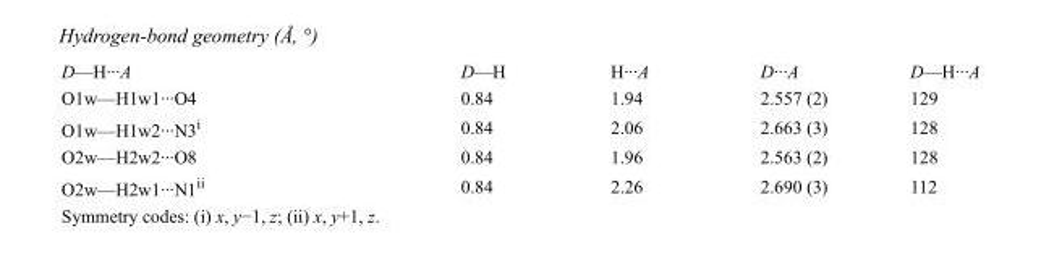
<table><tbody><tr><td>D—H···A</td><td>D—H</td><td>H···A</td><td>D···A</td><td>D—H···A</td></tr><tr><td>O1w—H1w1···O4</td><td>0.84</td><td>1.94</td><td>2.557 (2)</td><td>129</td></tr><tr><td>O1w—H1w2···N3<sup>i</sup></td><td>0.84</td><td>2.06</td><td>2.663 (3)</td><td>128</td></tr><tr><td>O2w—H2w2···O8</td><td>0.84</td><td>1.96</td><td>2.563 (2)</td><td>128</td></tr><tr><td>O2w—H2w1···N1<sup>ii</sup></td><td>0.84</td><td>2.26</td><td>2.690 (3)</td><td>112</td></tr></tbody></table>